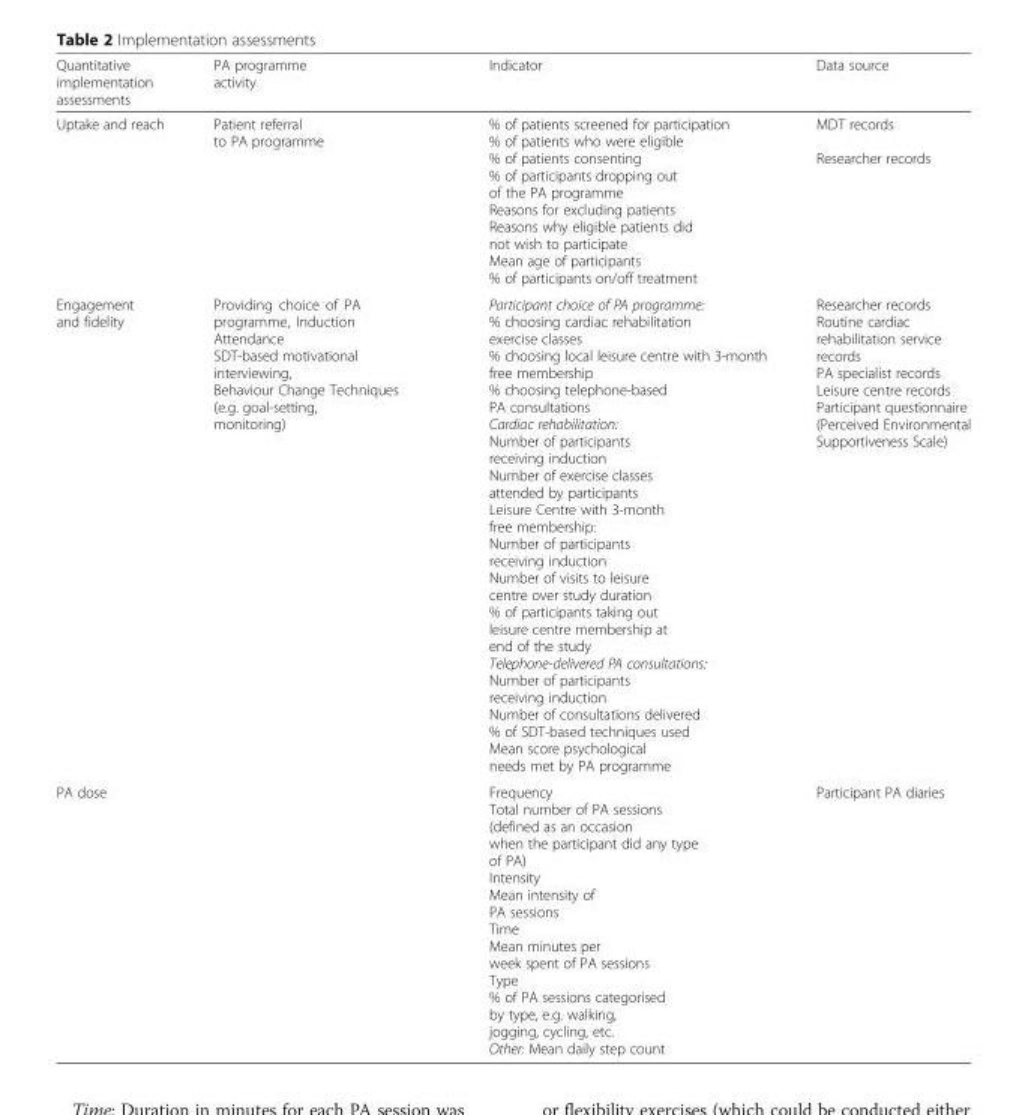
<table><thead><tr><td>Quantitative implementation assessments</td><td>PA programme activity</td><td>Indicator</td><td>Data source</td></tr></thead><tbody><tr><td>Uptake and reach</td><td>Patient referral to PA programme</td><td>% of patients screened for participation % of patients who were eligible % of patients consenting % of participants dropping out of the PA programme Reasons for excluding patients Reasons why eligible patients did not wish to participate Mean age of participants % of participants on/off treatment</td><td>MDT records Researcher records</td></tr><tr><td>Engagement and fidelity</td><td>Providing choice of PA programme, Induction Attendance SDT-based motivational interviewing, Behaviour Change Techniques (e.g. goal-setting, monitoring)</td><td>Participant choice of PA programme: % choosing cardiac rehabilitation exercise classes % choosing local leisure centre with 3-month free membership % choosing telephone-based PA consultations Cardiac rehabilitation: Number of participants receiving induction Number of exercise classes attended by participants Leisure Centre with 3-month free membership: Number of participants receiving induction Number of visits to leisure centre over study duration % of participants taking out leisure centre membership at end of the study Telephone-delivered PA consultations: Number of participants receiving induction Number of consultations delivered % of SDT-based techniques used Mean score psychological needs met by PA programme</td><td>Researcher records Routine cardiac rehabilitation service records PA specialist records Leisure centre records Participant questionnaire (Perceived Environmental Supportiveness Scale)</td></tr><tr><td>PA dose</td><td></td><td>Frequency Total number of PA sessions (defined as an occasion when the participant did any type of PA) Intensity Mean intensity of PA sessions Time Mean minutes per week spent of PA sessions Type % of PA sessions categorised by type, e.g. walking, jogging, cycling, etc. Other: Mean daily step count</td><td>Participant PA diaries</td></tr></tbody></table>